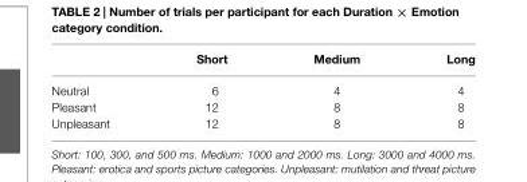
<table><thead><tr><td></td><td>Short</td><td>Medium</td><td>Long</td></tr></thead><tbody><tr><td>Neutral</td><td>6</td><td>4</td><td>4</td></tr><tr><td>Pleasant</td><td>12</td><td>8</td><td>8</td></tr><tr><td>Unpleasant</td><td>12</td><td>8</td><td>8</td></tr></tbody></table>